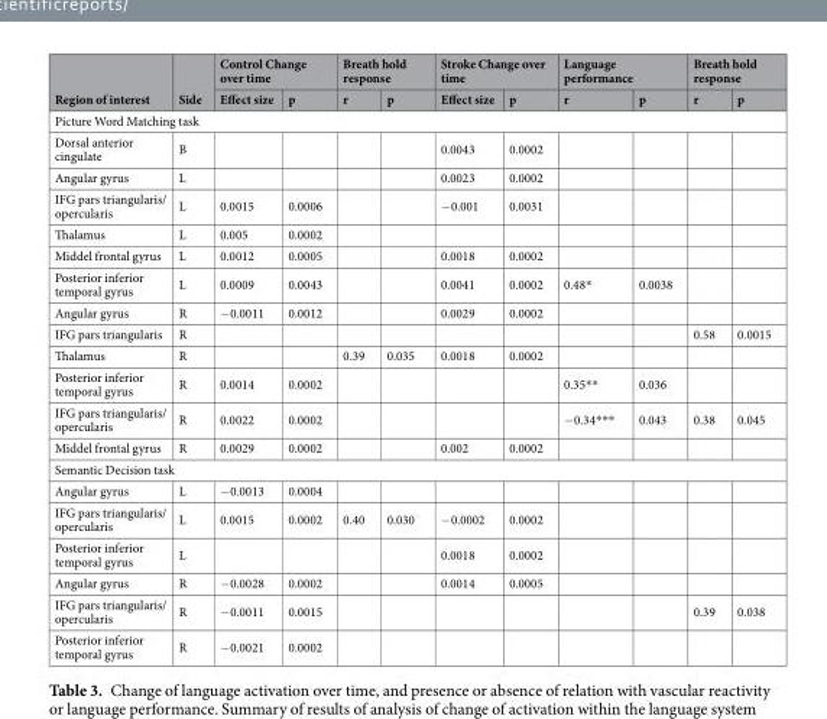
<table><thead><tr><td rowspan="2">Region of interest</td><td rowspan="2">Side</td><td colspan="2">Control Change over time</td><td colspan="2">Breath hold response</td><td colspan="2">Stroke Change over time</td><td colspan="2">Language performance</td><td colspan="2">Breath hold response</td></tr><tr><td>Effect size</td><td>p</td><td>r</td><td>p</td><td>Effect size</td><td>p</td><td>r</td><td>p</td><td>r</td><td>p</td></tr></thead><tbody><tr><td colspan="12">Picture Word Matching task</td></tr><tr><td>Dorsal anterior cingulate</td><td>B</td><td></td><td></td><td></td><td></td><td>0.0043</td><td>0.0002</td><td></td><td></td><td></td><td></td></tr><tr><td>Angular gyrus</td><td>L</td><td></td><td></td><td></td><td></td><td>0.0023</td><td>0.0002</td><td></td><td></td><td></td><td></td></tr><tr><td>IFG pars triangularis/ opercularis</td><td>L</td><td>0.0015</td><td>0.0006</td><td></td><td></td><td>−0.001</td><td>0.0031</td><td></td><td></td><td></td><td></td></tr><tr><td>Thalamus</td><td>L</td><td>0.005</td><td>0.0002</td><td></td><td></td><td></td><td></td><td></td><td></td><td></td><td></td></tr><tr><td>Middel frontal gyrus</td><td>L</td><td>0.0012</td><td>0.0005</td><td></td><td></td><td>0.0018</td><td>0.0002</td><td></td><td></td><td></td><td></td></tr><tr><td>Posterior inferior temporal gyrus</td><td>L</td><td>0.0009</td><td>0.0043</td><td></td><td></td><td>0.0041</td><td>0.0002</td><td>0.48*</td><td>0.0038</td><td></td><td></td></tr><tr><td>Angular gyrus</td><td>R</td><td>−0.0011</td><td>0.0012</td><td></td><td></td><td>0.0029</td><td>0.0002</td><td></td><td></td><td></td><td></td></tr><tr><td>IFG pars triangularis</td><td>R</td><td></td><td></td><td></td><td></td><td></td><td></td><td></td><td></td><td>0.58</td><td>0.0015</td></tr><tr><td>Thalamus</td><td>R</td><td></td><td></td><td>0.39</td><td>0.035</td><td>0.0018</td><td>0.0002</td><td></td><td></td><td></td><td></td></tr><tr><td>Posterior inferior temporal gyrus</td><td>R</td><td>0.0014</td><td>0.0002</td><td></td><td></td><td></td><td></td><td>0.35**</td><td>0.036</td><td></td><td></td></tr><tr><td>IFG pars triangularis/ opercularis</td><td>R</td><td>0.0022</td><td>0.0002</td><td></td><td></td><td></td><td></td><td>−0.34***</td><td>0.043</td><td>0.38</td><td>0.045</td></tr><tr><td>Middel frontal gyrus</td><td>R</td><td>0.0029</td><td>0.0002</td><td></td><td></td><td>0.002</td><td>0.0002</td><td></td><td></td><td></td><td></td></tr><tr><td colspan="12">Semantic Decision task</td></tr><tr><td>Angular gyrus</td><td>L</td><td>−0.0013</td><td>0.0004</td><td></td><td></td><td></td><td></td><td></td><td></td><td></td><td></td></tr><tr><td>IFG pars triangularis/ opercularis</td><td>L</td><td>0.0015</td><td>0.0002</td><td>0.40</td><td>0.030</td><td>−0.0002</td><td>0.0002</td><td></td><td></td><td></td><td></td></tr><tr><td>Posterior inferior temporal gyrus</td><td>L</td><td></td><td></td><td></td><td></td><td>0.0018</td><td>0.0002</td><td></td><td></td><td></td><td></td></tr><tr><td>Angular gyrus</td><td>R</td><td>−0.0028</td><td>0.0002</td><td></td><td></td><td>0.0014</td><td>0.0005</td><td></td><td></td><td></td><td></td></tr><tr><td>IFG pars triangularis/ opercularis</td><td>R</td><td>−0.0011</td><td>0.0015</td><td></td><td></td><td></td><td></td><td></td><td></td><td>0.39</td><td>0.038</td></tr><tr><td>Posterior inferior temporal gyrus</td><td>R</td><td>−0.0021</td><td>0.0002</td><td></td><td></td><td></td><td></td><td></td><td></td><td></td><td></td></tr></tbody></table>